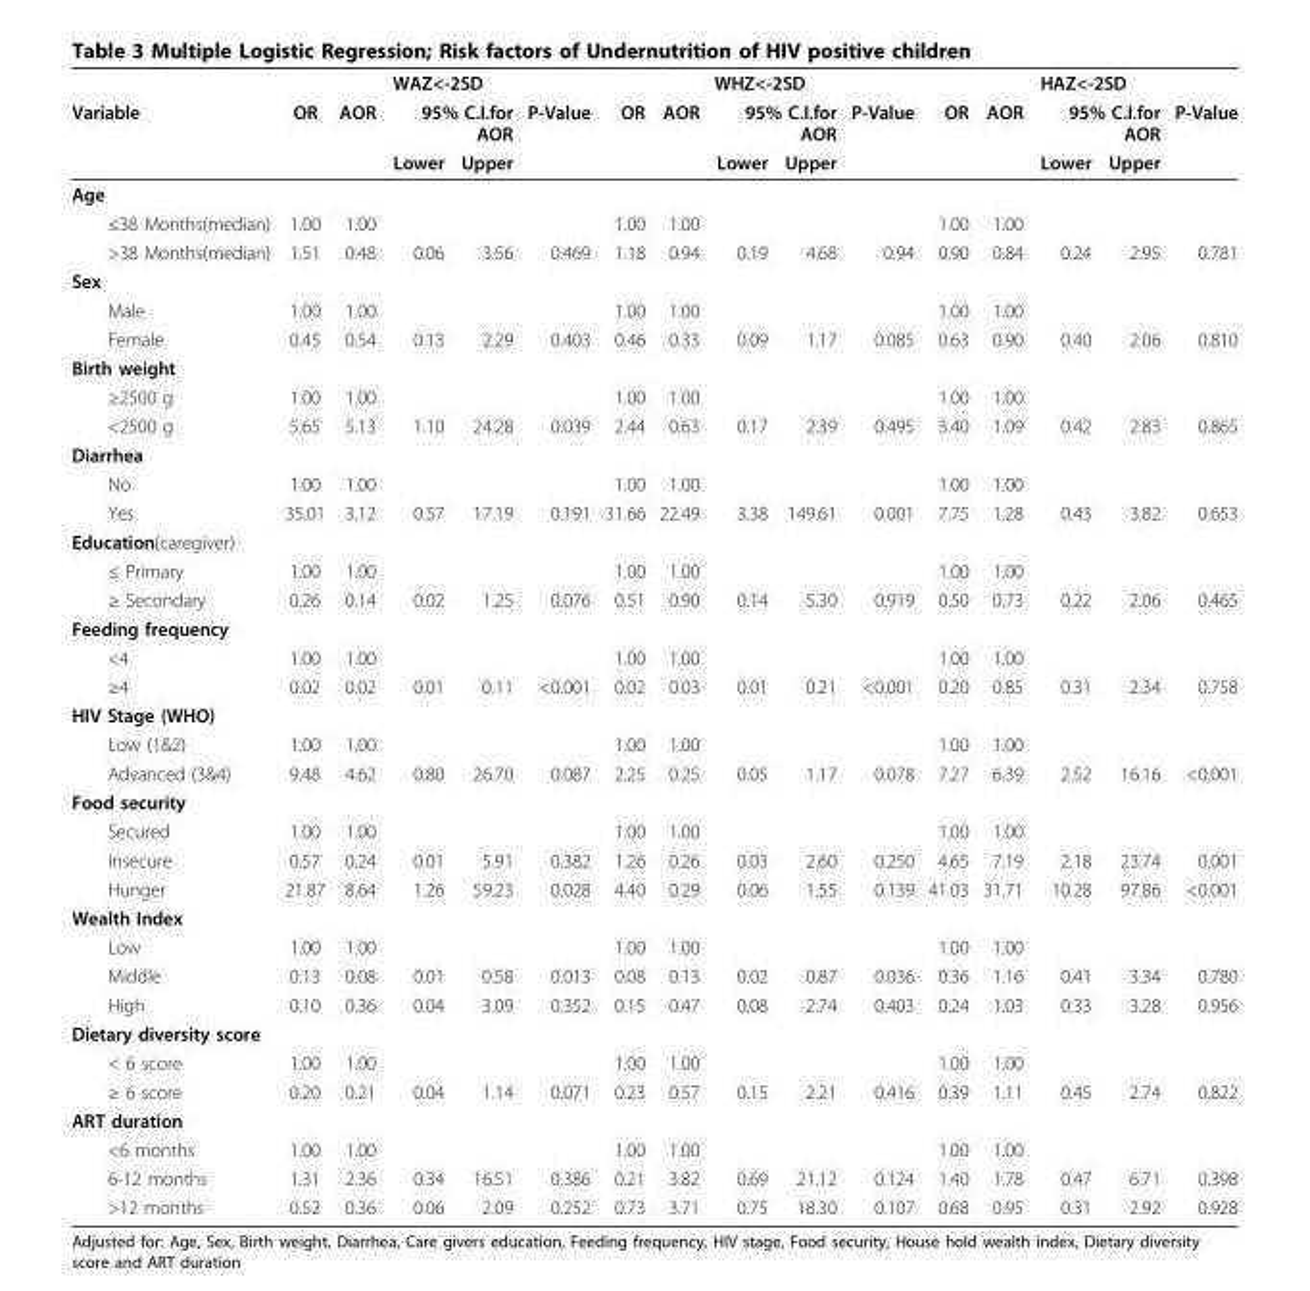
<table><thead><tr><td rowspan="3">Variable</td><td colspan="5">WAZ&lt;-2SD</td><td colspan="5">WHZ&lt;-2SD</td><td colspan="5">HAZ&lt;-2SD</td></tr><tr><td rowspan="2">OR</td><td rowspan="2">AOR</td><td colspan="2">95% C.I.for AOR</td><td rowspan="2">P-Value</td><td rowspan="2">OR</td><td rowspan="2">AOR</td><td colspan="2">95% C.I.for AOR</td><td rowspan="2">P-Value</td><td rowspan="2">OR</td><td rowspan="2">AOR</td><td colspan="2">95% C.I.for AOR</td><td rowspan="2">P-Value</td></tr><tr><td>Lower</td><td>Upper</td><td>Lower</td><td>Upper</td><td>Lower</td><td>Upper</td></tr></thead><tbody><tr><td colspan="16">Age</td></tr><tr><td>≤38 Months(median)</td><td>1.00</td><td>1.00</td><td></td><td></td><td></td><td>1.00</td><td>1.00</td><td></td><td></td><td></td><td>1.00</td><td>1.00</td><td></td><td></td><td></td></tr><tr><td>&gt;38 Months(median)</td><td>1.51</td><td>0.48</td><td>0.06</td><td>3.56</td><td>0.469</td><td>1.18</td><td>0.94</td><td>0.19</td><td>4.68</td><td>0.94</td><td>0.90</td><td>0.84</td><td>0.24</td><td>2.95</td><td>0.781</td></tr><tr><td colspan="16">Sex</td></tr><tr><td>Male</td><td>1.00</td><td>1.00</td><td></td><td></td><td></td><td>1.00</td><td>1.00</td><td></td><td></td><td></td><td>1.00</td><td>1.00</td><td></td><td></td><td></td></tr><tr><td>Female</td><td>0.45</td><td>0.54</td><td>0.13</td><td>2.29</td><td>0.403</td><td>0.46</td><td>0.33</td><td>0.09</td><td>1.17</td><td>0.085</td><td>0.63</td><td>0.90</td><td>0.40</td><td>2.06</td><td>0.810</td></tr><tr><td colspan="16">Birth weight</td></tr><tr><td>≥2500 g</td><td>1.00</td><td>1.00</td><td></td><td></td><td></td><td>1.00</td><td>1.00</td><td></td><td></td><td></td><td>1.00</td><td>1.00</td><td></td><td></td><td></td></tr><tr><td>&lt;2500 g</td><td>5.65</td><td>5.13</td><td>1.10</td><td>24.28</td><td>0.039</td><td>2.44</td><td>0.63</td><td>0.17</td><td>2.39</td><td>0.495</td><td>3.40</td><td>1.09</td><td>0.42</td><td>2.83</td><td>0.865</td></tr><tr><td colspan="16">Diarrhea</td></tr><tr><td>No</td><td>1.00</td><td>1.00</td><td></td><td></td><td></td><td>1.00</td><td>1.00</td><td></td><td></td><td></td><td>1.00</td><td>1.00</td><td></td><td></td><td></td></tr><tr><td>Yes</td><td>35.01</td><td>3.12</td><td>0.57</td><td>17.19</td><td>0.191</td><td>31.66</td><td>22.49</td><td>3.38</td><td>149.61</td><td>0.001</td><td>7.75</td><td>1.28</td><td>0.43</td><td>3.82</td><td>0.653</td></tr><tr><td colspan="16">Education(caregiver)</td></tr><tr><td>≤ Primary</td><td>1.00</td><td>1.00</td><td></td><td></td><td></td><td>1.00</td><td>1.00</td><td></td><td></td><td></td><td>1.00</td><td>1.00</td><td></td><td></td><td></td></tr><tr><td>≥ Secondary</td><td>0.26</td><td>0.14</td><td>0.02</td><td>1.25</td><td>0.076</td><td>0.51</td><td>0.90</td><td>0.14</td><td>5.30</td><td>0.919</td><td>0.50</td><td>0.73</td><td>0.22</td><td>2.06</td><td>0.465</td></tr><tr><td colspan="16">Feeding frequency</td></tr><tr><td>&lt;4</td><td>1.00</td><td>1.00</td><td></td><td></td><td></td><td>1.00</td><td>1.00</td><td></td><td></td><td></td><td>1.00</td><td>1.00</td><td></td><td></td><td></td></tr><tr><td>≥4</td><td>0.02</td><td>0.02</td><td>0.01</td><td>0.11</td><td>&lt;0.001</td><td>0.02</td><td>0.03</td><td>0.01</td><td>0.21</td><td>&lt;0.001</td><td>0.20</td><td>0.85</td><td>0.31</td><td>2.34</td><td>0.758</td></tr><tr><td colspan="16">HIV Stage (WHO)</td></tr><tr><td>Low (1&amp;2)</td><td>1.00</td><td>1.00</td><td></td><td></td><td></td><td>1.00</td><td>1.00</td><td></td><td></td><td></td><td>1.00</td><td>1.00</td><td></td><td></td><td></td></tr><tr><td>Advanced (3&amp;4)</td><td>9.48</td><td>4.62</td><td>0.80</td><td>26.70</td><td>0.087</td><td>2.25</td><td>0.25</td><td>0.05</td><td>1.17</td><td>0.078</td><td>7.27</td><td>6.39</td><td>2.52</td><td>16.16</td><td>&lt;0.001</td></tr><tr><td colspan="16">Food security</td></tr><tr><td>Secured</td><td>1.00</td><td>1.00</td><td></td><td></td><td></td><td>1.00</td><td>1.00</td><td></td><td></td><td></td><td>1.00</td><td>1.00</td><td></td><td></td><td></td></tr><tr><td>Insecure</td><td>0.57</td><td>0.24</td><td>0.01</td><td>5.91</td><td>0.382</td><td>1.26</td><td>0.26</td><td>0.03</td><td>2.60</td><td>0.250</td><td>4.65</td><td>7.19</td><td>2.18</td><td>23.74</td><td>0.001</td></tr><tr><td>Hunger</td><td>21.87</td><td>8.64</td><td>1.26</td><td>59.23</td><td>0.028</td><td>4.40</td><td>0.29</td><td>0.06</td><td>1.55</td><td>0.139</td><td>41.03</td><td>31.71</td><td>10.28</td><td>97.86</td><td>&lt;0.001</td></tr><tr><td colspan="16">Wealth Index</td></tr><tr><td>Low</td><td>1.00</td><td>1.00</td><td></td><td></td><td></td><td>1.00</td><td>1.00</td><td></td><td></td><td></td><td>1.00</td><td>1.00</td><td></td><td></td><td></td></tr><tr><td>Middle</td><td>0.13</td><td>0.08</td><td>0.01</td><td>0.58</td><td>0.013</td><td>0.08</td><td>0.13</td><td>0.02</td><td>0.87</td><td>0.036</td><td>0.36</td><td>1.16</td><td>0.41</td><td>3.34</td><td>0.780</td></tr><tr><td>High</td><td>0.10</td><td>0.36</td><td>0.04</td><td>3.09</td><td>0.352</td><td>0.15</td><td>0.47</td><td>0.08</td><td>2.74</td><td>0.403</td><td>0.24</td><td>1.03</td><td>0.33</td><td>3.28</td><td>0.956</td></tr><tr><td colspan="16">Dietary diversity score</td></tr><tr><td>&lt; 6 score</td><td>1.00</td><td>1.00</td><td></td><td></td><td></td><td>1.00</td><td>1.00</td><td></td><td></td><td></td><td>1.00</td><td>1.00</td><td></td><td></td><td></td></tr><tr><td>≥ 6 score</td><td>0.20</td><td>0.21</td><td>0.04</td><td>1.14</td><td>0.071</td><td>0.23</td><td>0.57</td><td>0.15</td><td>2.21</td><td>0.416</td><td>0.39</td><td>1.11</td><td>0.45</td><td>2.74</td><td>0.822</td></tr><tr><td colspan="16">ART duration</td></tr><tr><td>&lt;6 months</td><td>1.00</td><td>1.00</td><td></td><td></td><td></td><td>1.00</td><td>1.00</td><td></td><td></td><td></td><td>1.00</td><td>1.00</td><td></td><td></td><td></td></tr><tr><td>6-12 months</td><td>1.31</td><td>2.36</td><td>0.34</td><td>16.51</td><td>0.386</td><td>0.21</td><td>3.82</td><td>0.69</td><td>21.12</td><td>0.124</td><td>1.40</td><td>1.78</td><td>0.47</td><td>6.71</td><td>0.398</td></tr><tr><td>&gt;12 months</td><td>0.52</td><td>0.36</td><td>0.06</td><td>2.09</td><td>0.252</td><td>0.73</td><td>3.71</td><td>0.75</td><td>18.30</td><td>0.107</td><td>0.68</td><td>0.95</td><td>0.31</td><td>2.92</td><td>0.928</td></tr></tbody></table>